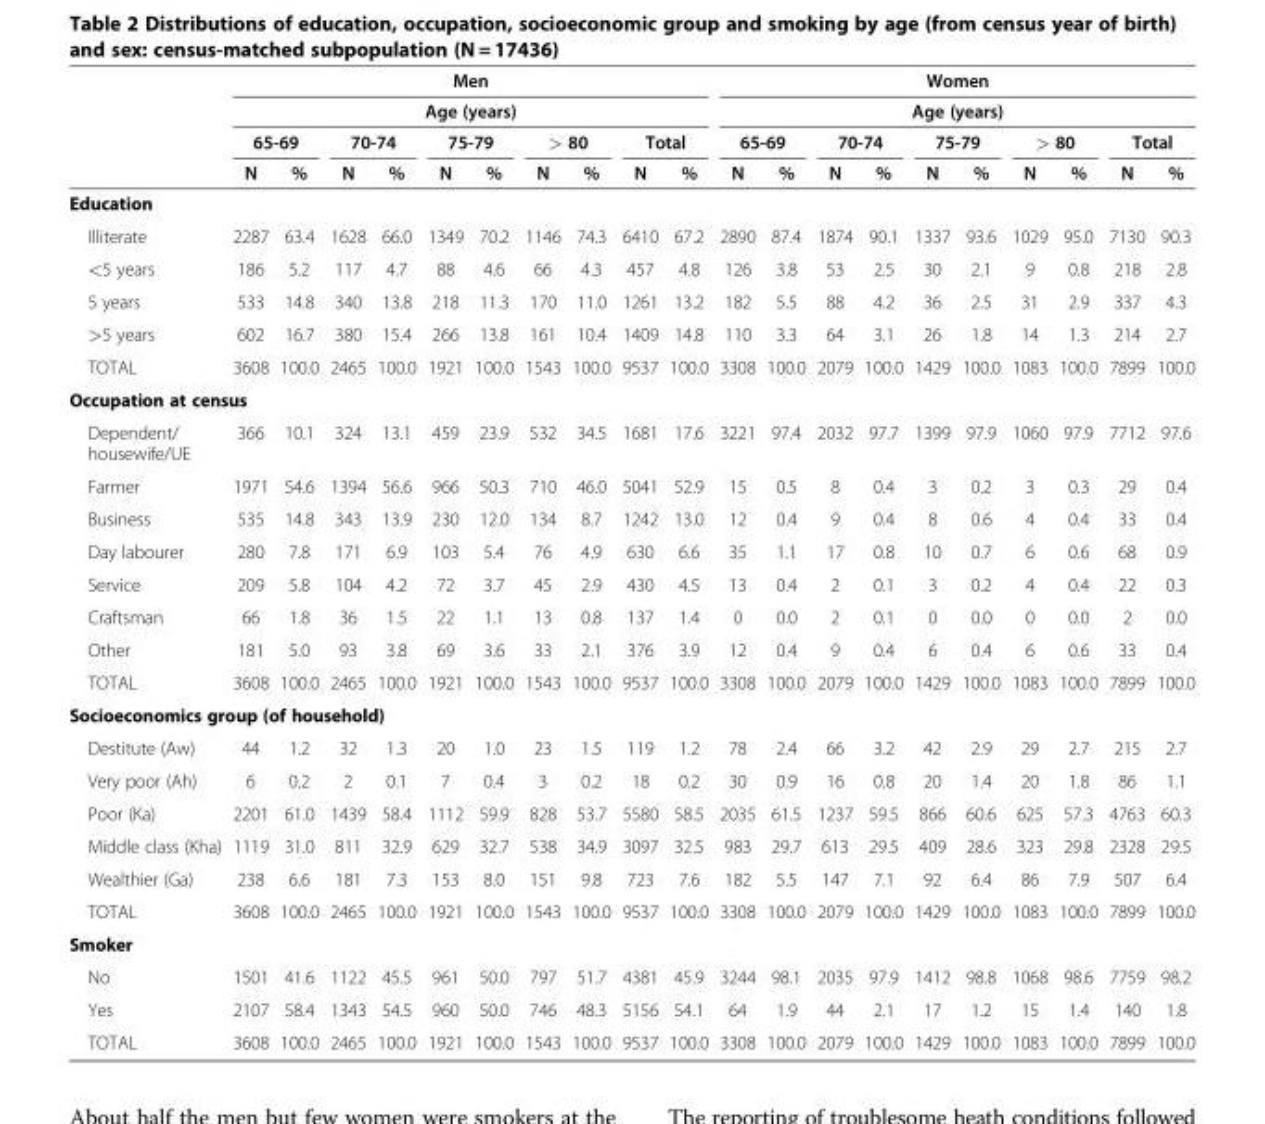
<table><thead><tr><td rowspan="4"></td><td rowspan="2" colspan="10">Men Age (years)</td><td rowspan="2" colspan="10">Women Age (years)</td></tr><tr></tr><tr><td colspan="2">65-69</td><td colspan="2">70-74</td><td colspan="2">75-79</td><td colspan="2">&gt; 80</td><td colspan="2">Total</td><td colspan="2">65-69</td><td colspan="2">70-74</td><td colspan="2">75-79</td><td colspan="2">&gt; 80</td><td colspan="2">Total</td></tr><tr><td>N</td><td>%</td><td>N</td><td>%</td><td>N</td><td>%</td><td>N</td><td>%</td><td>N</td><td>%</td><td>N</td><td>%</td><td>N</td><td>%</td><td>N</td><td>%</td><td>N</td><td>%</td><td>N</td><td>%</td></tr></thead><tbody><tr><td colspan="21">Education</td></tr><tr><td>Illiterate</td><td>2287</td><td>63.4</td><td>1628</td><td>66.0</td><td>1349</td><td>70.2</td><td>1146</td><td>74.3</td><td>6410</td><td>67.2</td><td>2890</td><td>87.4</td><td>1874</td><td>90.1</td><td>1337</td><td>93.6</td><td>1029</td><td>95.0</td><td>7130</td><td>90.3</td></tr><tr><td>&lt;5 years</td><td>186</td><td>5.2</td><td>117</td><td>4.7</td><td>88</td><td>4.6</td><td>66</td><td>4.3</td><td>457</td><td>4.8</td><td>126</td><td>3.8</td><td>53</td><td>2.5</td><td>30</td><td>2.1</td><td>9</td><td>0.8</td><td>218</td><td>2.8</td></tr><tr><td>5 years</td><td>533</td><td>14.8</td><td>340</td><td>13.8</td><td>218</td><td>11.3</td><td>170</td><td>11.0</td><td>1261</td><td>13.2</td><td>182</td><td>5.5</td><td>88</td><td>4.2</td><td>36</td><td>2.5</td><td>31</td><td>2.9</td><td>337</td><td>4.3</td></tr><tr><td>&gt;5 years</td><td>602</td><td>16.7</td><td>380</td><td>15.4</td><td>266</td><td>13.8</td><td>161</td><td>10.4</td><td>1409</td><td>14.8</td><td>110</td><td>3.3</td><td>64</td><td>3.1</td><td>26</td><td>1.8</td><td>14</td><td>1.3</td><td>214</td><td>2.7</td></tr><tr><td>TOTAL</td><td>3608</td><td>100.0</td><td>2465</td><td>100.0</td><td>1921</td><td>100.0</td><td>1543</td><td>100.0</td><td>9537</td><td>100.0</td><td>3308</td><td>100.0</td><td>2079</td><td>100.0</td><td>1429</td><td>100.0</td><td>1083</td><td>100.0</td><td>7899</td><td>100.0</td></tr><tr><td colspan="21">Occupation at census</td></tr><tr><td>Dependent/ housewife/UE</td><td>366</td><td>10.1</td><td>324</td><td>13.1</td><td>459</td><td>23.9</td><td>532</td><td>34.5</td><td>1681</td><td>17.6</td><td>3221</td><td>97.4</td><td>2032</td><td>97.7</td><td>1399</td><td>97.9</td><td>1060</td><td>97.9</td><td>7712</td><td>97.6</td></tr><tr><td>Farmer</td><td>1971</td><td>54.6</td><td>1394</td><td>56.6</td><td>966</td><td>50.3</td><td>710</td><td>46.0</td><td>5041</td><td>52.9</td><td>15</td><td>0.5</td><td>8</td><td>0.4</td><td>3</td><td>0.2</td><td>3</td><td>0.3</td><td>29</td><td>0.4</td></tr><tr><td>Business</td><td>535</td><td>14.8</td><td>343</td><td>13.9</td><td>230</td><td>12.0</td><td>134</td><td>8.7</td><td>1242</td><td>13.0</td><td>12</td><td>0.4</td><td>9</td><td>0.4</td><td>8</td><td>0.6</td><td>4</td><td>0.4</td><td>33</td><td>0.4</td></tr><tr><td>Day labourer</td><td>280</td><td>7.8</td><td>171</td><td>6.9</td><td>103</td><td>5.4</td><td>76</td><td>4.9</td><td>630</td><td>6.6</td><td>35</td><td>1.1</td><td>17</td><td>0.8</td><td>10</td><td>0.7</td><td>6</td><td>0.6</td><td>68</td><td>0.9</td></tr><tr><td>Service</td><td>209</td><td>5.8</td><td>104</td><td>4.2</td><td>72</td><td>3.7</td><td>45</td><td>2.9</td><td>430</td><td>4.5</td><td>13</td><td>0.4</td><td>2</td><td>0.1</td><td>3</td><td>0.2</td><td>4</td><td>0.4</td><td>22</td><td>0.3</td></tr><tr><td>Craftsman</td><td>66</td><td>1.8</td><td>36</td><td>1.5</td><td>22</td><td>1.1</td><td>13</td><td>0.8</td><td>137</td><td>1.4</td><td>0</td><td>0.0</td><td>2</td><td>0.1</td><td>0</td><td>0.0</td><td>0</td><td>0.0</td><td>2</td><td>0.0</td></tr><tr><td>Other</td><td>181</td><td>5.0</td><td>93</td><td>3.8</td><td>69</td><td>3.6</td><td>33</td><td>2.1</td><td>376</td><td>3.9</td><td>12</td><td>0.4</td><td>9</td><td>0.4</td><td>6</td><td>0.4</td><td>6</td><td>0.6</td><td>33</td><td>0.4</td></tr><tr><td>TOTAL</td><td>3608</td><td>100.0</td><td>2465</td><td>100.0</td><td>1921</td><td>100.0</td><td>1543</td><td>100.0</td><td>9537</td><td>100.0</td><td>3308</td><td>100.0</td><td>2079</td><td>100.0</td><td>1429</td><td>100.0</td><td>1083</td><td>100.0</td><td>7899</td><td>100.0</td></tr><tr><td colspan="21">Socioeconomics group (of household)</td></tr><tr><td>Destitute (Aw)</td><td>44</td><td>1.2</td><td>32</td><td>1.3</td><td>20</td><td>1.0</td><td>23</td><td>1.5</td><td>119</td><td>1.2</td><td>78</td><td>2.4</td><td>66</td><td>3.2</td><td>42</td><td>2.9</td><td>29</td><td>2.7</td><td>215</td><td>2.7</td></tr><tr><td>Very poor (Ah)</td><td>6</td><td>0.2</td><td>2</td><td>0.1</td><td>7</td><td>0.4</td><td>3</td><td>0.2</td><td>18</td><td>0.2</td><td>30</td><td>0.9</td><td>16</td><td>0.8</td><td>20</td><td>1.4</td><td>20</td><td>1.8</td><td>86</td><td>1.1</td></tr><tr><td>Poor (Ka)</td><td>2201</td><td>61.0</td><td>1439</td><td>58.4</td><td>1112</td><td>59.9</td><td>828</td><td>53.7</td><td>5580</td><td>58.5</td><td>2035</td><td>61.5</td><td>1237</td><td>59.5</td><td>866</td><td>60.6</td><td>625</td><td>57.3</td><td>4763</td><td>60.3</td></tr><tr><td>Middle class (Kha)</td><td>1119</td><td>31.0</td><td>811</td><td>32.9</td><td>629</td><td>32.7</td><td>538</td><td>34.9</td><td>3097</td><td>32.5</td><td>983</td><td>29.7</td><td>613</td><td>29.5</td><td>409</td><td>28.6</td><td>323</td><td>29.8</td><td>2328</td><td>29.5</td></tr><tr><td>Wealthier (Ga)</td><td>238</td><td>6.6</td><td>181</td><td>7.3</td><td>153</td><td>8.0</td><td>151</td><td>9.8</td><td>723</td><td>7.6</td><td>182</td><td>5.5</td><td>147</td><td>7.1</td><td>92</td><td>6.4</td><td>86</td><td>7.9</td><td>507</td><td>6.4</td></tr><tr><td>TOTAL</td><td>3608</td><td>100.0</td><td>2465</td><td>100.0</td><td>1921</td><td>100.0</td><td>1543</td><td>100.0</td><td>9537</td><td>100.0</td><td>3308</td><td>100.0</td><td>2079</td><td>100.0</td><td>1429</td><td>100.0</td><td>1083</td><td>100.0</td><td>7899</td><td>100.0</td></tr><tr><td colspan="21">Smoker</td></tr><tr><td>No</td><td>1501</td><td>41.6</td><td>1122</td><td>45.5</td><td>961</td><td>50.0</td><td>797</td><td>51.7</td><td>4381</td><td>45.9</td><td>3244</td><td>98.1</td><td>2035</td><td>97.9</td><td>1412</td><td>98.8</td><td>1068</td><td>98.6</td><td>7759</td><td>98.2</td></tr><tr><td>Yes</td><td>2107</td><td>58.4</td><td>1343</td><td>54.5</td><td>960</td><td>50.0</td><td>746</td><td>48.3</td><td>5156</td><td>54.1</td><td>64</td><td>1.9</td><td>44</td><td>2.1</td><td>17</td><td>1.2</td><td>15</td><td>1.4</td><td>140</td><td>1.8</td></tr><tr><td>TOTAL</td><td>3608</td><td>100.0</td><td>2465</td><td>100.0</td><td>1921</td><td>100.0</td><td>1543</td><td>100.0</td><td>9537</td><td>100.0</td><td>3308</td><td>100.0</td><td>2079</td><td>100.0</td><td>1429</td><td>100.0</td><td>1083</td><td>100.0</td><td>7899</td><td>100.0</td></tr></tbody></table>